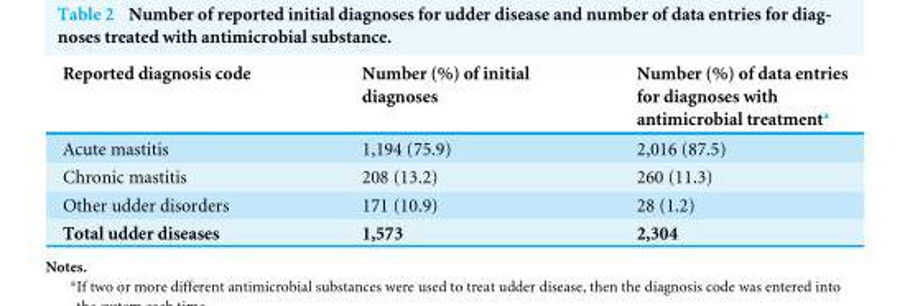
<table><thead><tr><td>Reported diagnosis code</td><td>Number (%) of initial diagnoses</td><td>Number (%) of data entries for diagnoses with antimicrobial treatment<sup>a</sup></td></tr></thead><tbody><tr><td>Acute mastitis</td><td>1,194 (75.9)</td><td>2,016 (87.5)</td></tr><tr><td>Chronic mastitis</td><td>208 (13.2)</td><td>260 (11.3)</td></tr><tr><td>Other udder disorders</td><td>171 (10.9)</td><td>28 (1.2)</td></tr><tr><td>Total udder diseases</td><td>1,573</td><td>2,304</td></tr></tbody></table>